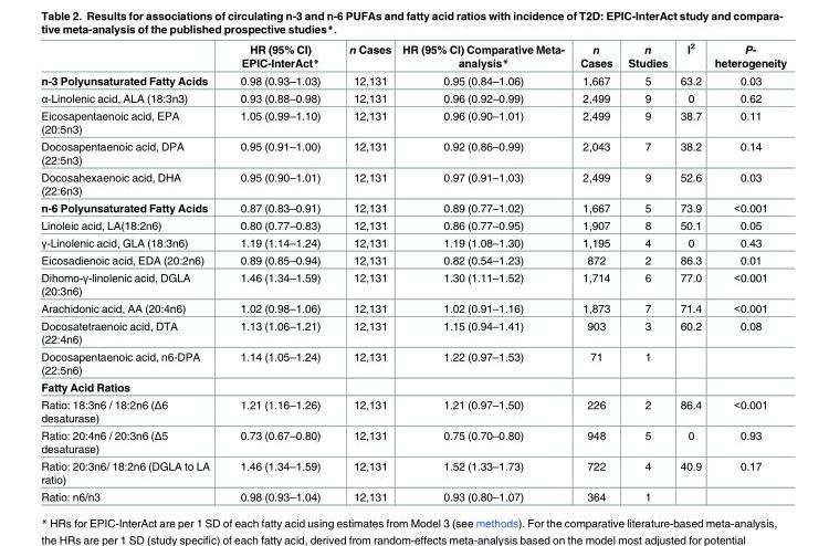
<table><thead><tr><td></td><td>HR (95% CI) EPIC-InterAct*</td><td>n Cases</td><td>HR (95% CI) Comparative Meta- analysis*</td><td>n Cases</td><td>n Studies</td><td>I<sup>2</sup></td><td>P- heterogeneity</td></tr></thead><tbody><tr><td>n-3 Polyunsaturated Fatty Acids</td><td>0.98 (0.93–1.03)</td><td>12,131</td><td>0.95 (0.84–1.06)</td><td>1,667</td><td>5</td><td>63.2</td><td>0.03</td></tr><tr><td>α-Linolenic acid, ALA (18:3n3)</td><td>0.93 (0.88–0.98)</td><td>12,131</td><td>0.96 (0.92–0.99)</td><td>2,499</td><td>9</td><td>0</td><td>0.62</td></tr><tr><td>Eicosapentaenoic acid, EPA (20:5n3)</td><td>1.05 (0.99–1.10)</td><td>12,131</td><td>0.96 (0.90–1.01)</td><td>2,499</td><td>9</td><td>38.7</td><td>0.11</td></tr><tr><td>Docosapentaenoic acid, DPA (22:5n3)</td><td>0.95 (0.91–1.00)</td><td>12,131</td><td>0.92 (0.86–0.99)</td><td>2,043</td><td>7</td><td>38.2</td><td>0.14</td></tr><tr><td>Docosahexaenoic acid, DHA (22:6n3)</td><td>0.95 (0.90–1.01)</td><td>12,131</td><td>0.97 (0.91–1.03)</td><td>2,499</td><td>9</td><td>52.6</td><td>0.03</td></tr><tr><td>n-6 Polyunsaturated Fatty Acids</td><td>0.87 (0.83–0.91)</td><td>12,131</td><td>0.89 (0.77–1.02)</td><td>1,667</td><td>5</td><td>73.9</td><td>&lt;0.001</td></tr><tr><td>Linoleic acid, LA(18:2n6)</td><td>0.80 (0.77–0.83)</td><td>12,131</td><td>0.86 (0.77–0.95)</td><td>1,907</td><td>8</td><td>50.1</td><td>0.05</td></tr><tr><td>γ-Linolenic acid, GLA (18:3n6)</td><td>1.19 (1.14–1.24)</td><td>12,131</td><td>1.19 (1.08–1.30)</td><td>1,195</td><td>4</td><td>0</td><td>0.43</td></tr><tr><td>Eicosadienoic acid, EDA (20:2n6)</td><td>0.89 (0.85–0.94)</td><td>12,131</td><td>0.82 (0.54–1.23)</td><td>872</td><td>2</td><td>86.3</td><td>0.01</td></tr><tr><td>Dihomo-γ-linolenic acid, DGLA (20:3n6)</td><td>1.46 (1.34–1.59)</td><td>12,131</td><td>1.30 (1.11–1.52)</td><td>1,714</td><td>6</td><td>77.0</td><td>&lt;0.001</td></tr><tr><td>Arachidonic acid, AA (20:4n6)</td><td>1.02 (0.98–1.06)</td><td>12,131</td><td>1.02 (0.91–1.16)</td><td>1,873</td><td>7</td><td>71.4</td><td>&lt;0.001</td></tr><tr><td>Docosatetraenoic acid, DTA (22:4n6)</td><td>1.13 (1.06–1.21)</td><td>12,131</td><td>1.15 (0.94–1.41)</td><td>903</td><td>3</td><td>60.2</td><td>0.08</td></tr><tr><td>Docosapentaenoic acid, n6-DPA (22:5n6)</td><td>1.14 (1.05–1.24)</td><td>12,131</td><td>1.22 (0.97–1.53)</td><td>71</td><td>1</td><td></td><td></td></tr><tr><td colspan="8">Fatty Acid Ratios</td></tr><tr><td>Ratio: 18:3n6 / 18:2n6 (Δ6 desaturase)</td><td>1.21 (1.16–1.26)</td><td>12,131</td><td>1.21 (0.97–1.50)</td><td>226</td><td>2</td><td>86.4</td><td>&lt;0.001</td></tr><tr><td>Ratio: 20:4n6 / 20:3n6 (Δ5 desaturase)</td><td>0.73 (0.67–0.80)</td><td>12,131</td><td>0.75 (0.70–0.80)</td><td>948</td><td>5</td><td>0</td><td>0.93</td></tr><tr><td>Ratio: 20:3n6/ 18:2n6 (DGLA to LA ratio)</td><td>1.46 (1.34–1.59)</td><td>12,131</td><td>1.52 (1.33–1.73)</td><td>722</td><td>4</td><td>40.9</td><td>0.17</td></tr><tr><td>Ratio: n6/n3</td><td>0.98 (0.93–1.04)</td><td>12,131</td><td>0.93 (0.80–1.07)</td><td>364</td><td>1</td><td></td><td></td></tr></tbody></table>